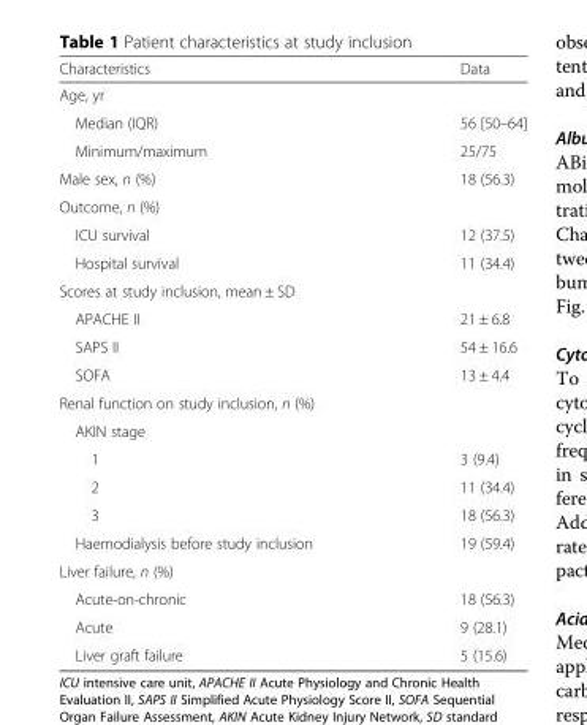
<table><thead><tr><td>Characteristics</td><td>Data</td></tr></thead><tbody><tr><td colspan="2">Age, yr</td></tr><tr><td>Median (IQR)</td><td>56 [50–64]</td></tr><tr><td>Minimum/maximum</td><td>25/75</td></tr><tr><td>Male sex, n (%)</td><td>18 (56.3)</td></tr><tr><td colspan="2">Outcome, n (%)</td></tr><tr><td>ICU survival</td><td>12 (37.5)</td></tr><tr><td>Hospital survival</td><td>11 (34.4)</td></tr><tr><td colspan="2">Scores at study inclusion, mean ± SD</td></tr><tr><td>APACHE II</td><td>21 ± 6.8</td></tr><tr><td>SAPS II</td><td>54 ± 16.6</td></tr><tr><td>SOFA</td><td>13 ± 4.4</td></tr><tr><td colspan="2">Renal function on study inclusion, n (%)</td></tr><tr><td colspan="2">AKIN stage</td></tr><tr><td>1</td><td>3 (9.4)</td></tr><tr><td>2</td><td>11 (34.4)</td></tr><tr><td>3</td><td>18 (56.3)</td></tr><tr><td>Haemodialysis before study inclusion</td><td>19 (59.4)</td></tr><tr><td colspan="2">Liver failure, n (%)</td></tr><tr><td>Acute-on-chronic</td><td>18 (56.3)</td></tr><tr><td>Acute</td><td>9 (28.1)</td></tr><tr><td>Liver graft failure</td><td>5 (15.6)</td></tr></tbody></table>